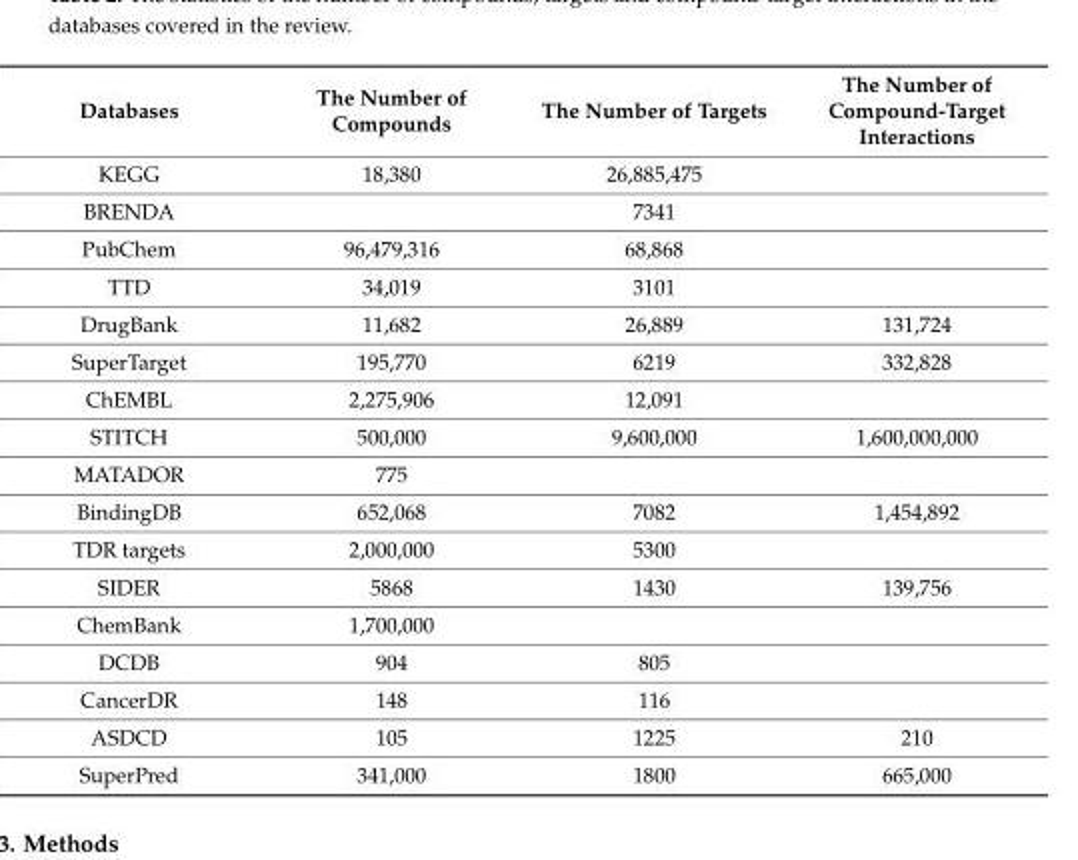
<table><thead><tr><td>Databases</td><td>The Number of Compounds</td><td>The Number of Targets</td><td>The Number of Compound-Target Interactions</td></tr></thead><tbody><tr><td>KEGG</td><td>18,380</td><td>26,885,475</td><td></td></tr><tr><td>BRENDA</td><td></td><td>7341</td><td></td></tr><tr><td>PubChem</td><td>96,479,316</td><td>68,868</td><td></td></tr><tr><td>TTD</td><td>34,019</td><td>3101</td><td></td></tr><tr><td>DrugBank</td><td>11,682</td><td>26,889</td><td>131,724</td></tr><tr><td>SuperTarget</td><td>195,770</td><td>6219</td><td>332,828</td></tr><tr><td>ChEMBL</td><td>2,275,906</td><td>12,091</td><td></td></tr><tr><td>STITCH</td><td>500,000</td><td>9,600,000</td><td>1,600,000,000</td></tr><tr><td>MATADOR</td><td>775</td><td></td><td></td></tr><tr><td>BindingDB</td><td>652,068</td><td>7082</td><td>1,454,892</td></tr><tr><td>TDR targets</td><td>2,000,000</td><td>5300</td><td></td></tr><tr><td>SIDER</td><td>5868</td><td>1430</td><td>139,756</td></tr><tr><td>ChemBank</td><td>1,700,000</td><td></td><td></td></tr><tr><td>DCDB</td><td>904</td><td>805</td><td></td></tr><tr><td>CancerDR</td><td>148</td><td>116</td><td></td></tr><tr><td>ASDCD</td><td>105</td><td>1225</td><td>210</td></tr><tr><td>SuperPred</td><td>341,000</td><td>1800</td><td>665,000</td></tr></tbody></table>